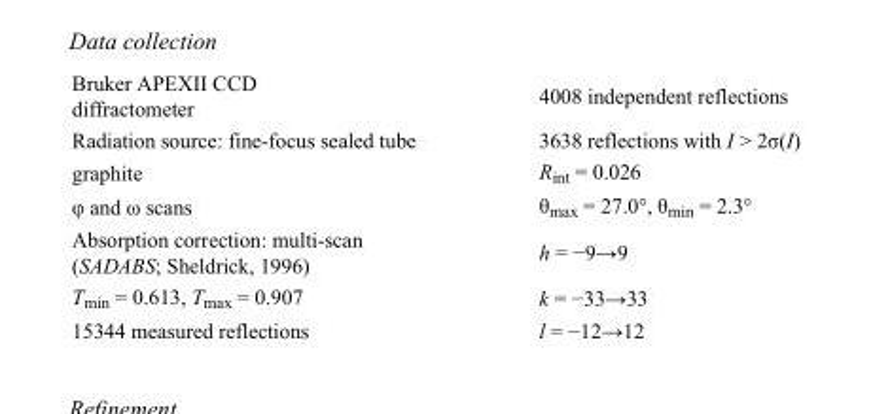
<table><tbody><tr><td>Bruker APEXII CCD diffractometer</td><td>4008 independent reflections</td></tr><tr><td>Radiation source: fine-focus sealed tube</td><td>3638 reflections with I &gt; 2σ(I)</td></tr><tr><td>graphite</td><td>R<sub>int</sub> = 0.026</td></tr><tr><td>φ and ω scans</td><td>θ<sub>max</sub> = 27.0°, θ<sub>min</sub> = 2.3°</td></tr><tr><td>Absorption correction: multi-scan (SADABS; Sheldrick, 1996)</td><td>h = −9→9</td></tr><tr><td>T<sub>min</sub> = 0.613, T<sub>max</sub> = 0.907</td><td>k = −33→33</td></tr><tr><td>15344 measured reflections</td><td>l = −12→12</td></tr></tbody></table>